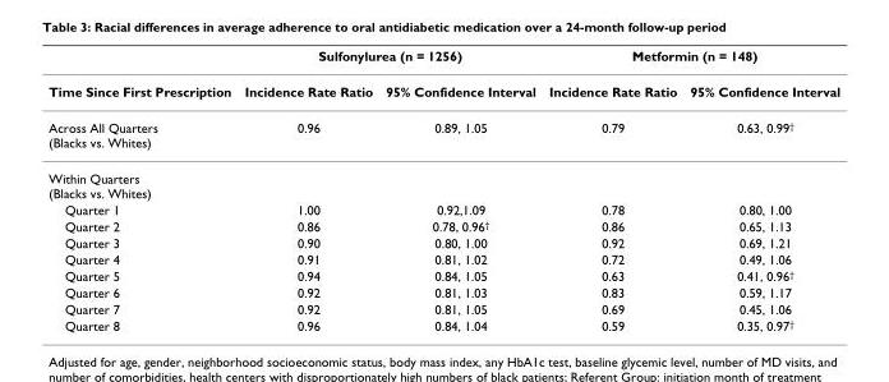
<table><thead><tr><td rowspan="2">Time Since First Prescription</td><td colspan="2">Sulfonylurea (n = 1256)</td><td colspan="2">Metformin (n = 148)</td></tr><tr><td>Incidence Rate Ratio</td><td>95% Confidence Interval</td><td>Incidence Rate Ratio</td><td>95% Confidence Interval</td></tr></thead><tbody><tr><td>Across All Quarters (Blacks vs. Whites)</td><td>0.96</td><td>0.89, 1.05</td><td>0.79</td><td>0.63, 0.99<sup>†</sup></td></tr><tr><td colspan="5">Within Quarters (Blacks vs. Whites)</td></tr><tr><td>Quarter 1</td><td>1.00</td><td>0.92,1.09</td><td>0.78</td><td>0.80, 1.00</td></tr><tr><td>Quarter 2</td><td>0.86</td><td>0.78, 0.96<sup>†</sup></td><td>0.86</td><td>0.65, 1.13</td></tr><tr><td>Quarter 3</td><td>0.90</td><td>0.80, 1.00</td><td>0.92</td><td>0.69, 1.21</td></tr><tr><td>Quarter 4</td><td>0.91</td><td>0.81, 1.02</td><td>0.72</td><td>0.49, 1.06</td></tr><tr><td>Quarter 5</td><td>0.94</td><td>0.84, 1.05</td><td>0.63</td><td>0.41, 0.96<sup>†</sup></td></tr><tr><td>Quarter 6</td><td>0.92</td><td>0.81, 1.03</td><td>0.83</td><td>0.59, 1.17</td></tr><tr><td>Quarter 7</td><td>0.92</td><td>0.81, 1.05</td><td>0.69</td><td>0.45, 1.06</td></tr><tr><td>Quarter 8</td><td>0.96</td><td>0.84, 1.04</td><td>0.59</td><td>0.35, 0.97<sup>†</sup></td></tr></tbody></table>